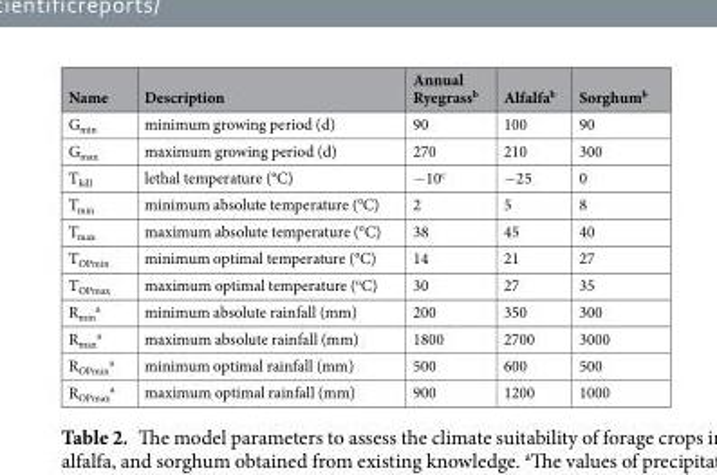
<table><thead><tr><td>Name</td><td>Description</td><td>Annual Ryegrass<sup>b</sup></td><td>Alfalfa<sup>b</sup></td><td>Sorghum<sup>b</sup></td></tr></thead><tbody><tr><td>G<sub>min</sub></td><td>minimum growing period (d)</td><td>90</td><td>100</td><td>90</td></tr><tr><td>G<sub>max</sub></td><td>maximum growing period (d)</td><td>270</td><td>210</td><td>300</td></tr><tr><td>T<sub>kill</sub></td><td>lethal temperature (°C)</td><td>−10<sup>c</sup></td><td>−25</td><td>0</td></tr><tr><td>T<sub>min</sub></td><td>minimum absolute temperature (°C)</td><td>2</td><td>5</td><td>8</td></tr><tr><td>T<sub>max</sub></td><td>maximum absolute temperature (°C)</td><td>38</td><td>45</td><td>40</td></tr><tr><td>T<sub>OPmin</sub></td><td>minimum optimal temperature (°C)</td><td>14</td><td>21</td><td>27</td></tr><tr><td>T<sub>OPmax</sub></td><td>maximum optimal temperature (<sup>o</sup>C)</td><td>30</td><td>27</td><td>35</td></tr><tr><td>R<sub>min</sub> <sup>a</sup></td><td>minimum absolute rainfall (mm)</td><td>200</td><td>350</td><td>300</td></tr><tr><td>R<sub>max</sub> <sup>a</sup></td><td>maximum absolute rainfall (mm)</td><td>1800</td><td>2700</td><td>3000</td></tr><tr><td>R<sub>OPmin</sub> <sup>a</sup></td><td>minimum optimal rainfall (mm)</td><td>500</td><td>600</td><td>500</td></tr><tr><td>R<sub>OPmax</sub> <sup>a</sup></td><td>maximum optimal rainfall (mm)</td><td>900</td><td>1200</td><td>1000</td></tr></tbody></table>